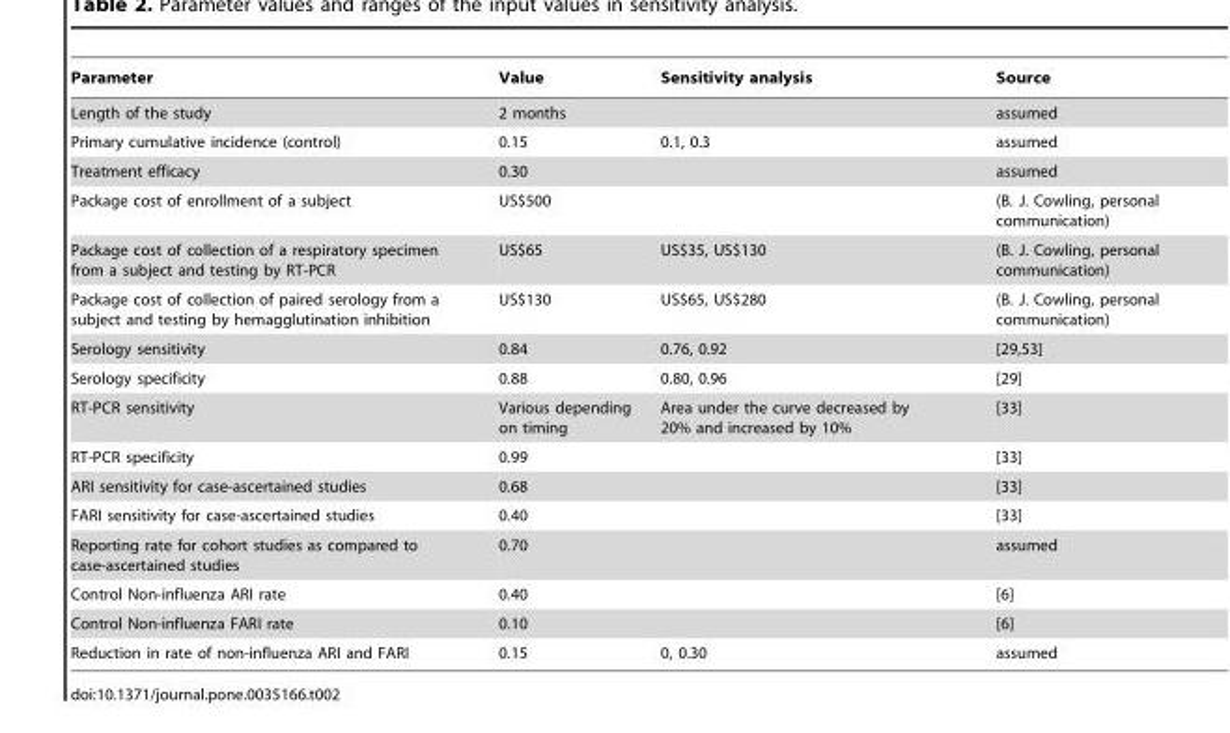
<table><thead><tr><td>Parameter</td><td>Value</td><td>Sensitivity analysis</td><td>Source</td></tr></thead><tbody><tr><td>Length of the study</td><td>2 months</td><td></td><td>assumed</td></tr><tr><td>Primary cumulative incidence (control)</td><td>0.15</td><td>0.1, 0.3</td><td>assumed</td></tr><tr><td>Treatment efficacy</td><td>0.30</td><td></td><td>assumed</td></tr><tr><td>Package cost of enrollment of a subject</td><td>US$500</td><td></td><td>(B. J. Cowling, personal communication)</td></tr><tr><td>Package cost of collection of a respiratory specimen from a subject and testing by RT-PCR</td><td>US$65</td><td>US$35, US$130</td><td>(B. J. Cowling, personal communication)</td></tr><tr><td>Package cost of collection of paired serology from a subject and testing by hemagglutination inhibition</td><td>US$130</td><td>US$65, US$280</td><td>(B. J. Cowling, personal communication)</td></tr><tr><td>Serology sensitivity</td><td>0.84</td><td>0.76, 0.92</td><td>[29,53]</td></tr><tr><td>Serology specificity</td><td>0.88</td><td>0.80, 0.96</td><td>[29]</td></tr><tr><td>RT-PCR sensitivity</td><td>Various depending on timing</td><td>Area under the curve decreased by 20% and increased by 10%</td><td>[33]</td></tr><tr><td>RT-PCR specificity</td><td>0.99</td><td></td><td>[33]</td></tr><tr><td>ARI sensitivity for case-ascertained studies</td><td>0.68</td><td></td><td>[33]</td></tr><tr><td>FARI sensitivity for case-ascertained studies</td><td>0.40</td><td></td><td>[33]</td></tr><tr><td>Reporting rate for cohort studies as compared to case-ascertained studies</td><td>0.70</td><td></td><td>assumed</td></tr><tr><td>Control Non-influenza ARI rate</td><td>0.40</td><td></td><td>[6]</td></tr><tr><td>Control Non-influenza FARI rate</td><td>0.10</td><td></td><td>[6]</td></tr><tr><td>Reduction in rate of non-influenza ARI and FARI</td><td>0.15</td><td>0, 0.30</td><td>assumed</td></tr></tbody></table>